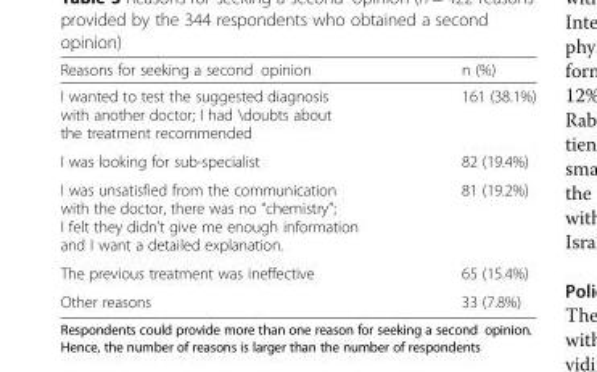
<table><thead><tr><td>Reasons for seeking a second opinion</td><td>n (%)</td></tr></thead><tbody><tr><td>I wanted to test the suggested diagnosis with another doctor; I had \doubts about the treatment recommended</td><td>161 (38.1%)</td></tr><tr><td>I was looking for sub-specialist</td><td>82 (19.4%)</td></tr><tr><td>I was unsatisfied from the communication with the doctor, there was no “chemistry”; I felt they didn’t give me enough information and I want a detailed explanation.</td><td>81 (19.2%)</td></tr><tr><td>The previous treatment was ineffective</td><td>65 (15.4%)</td></tr><tr><td>Other reasons</td><td>33 (7.8%)</td></tr></tbody></table>